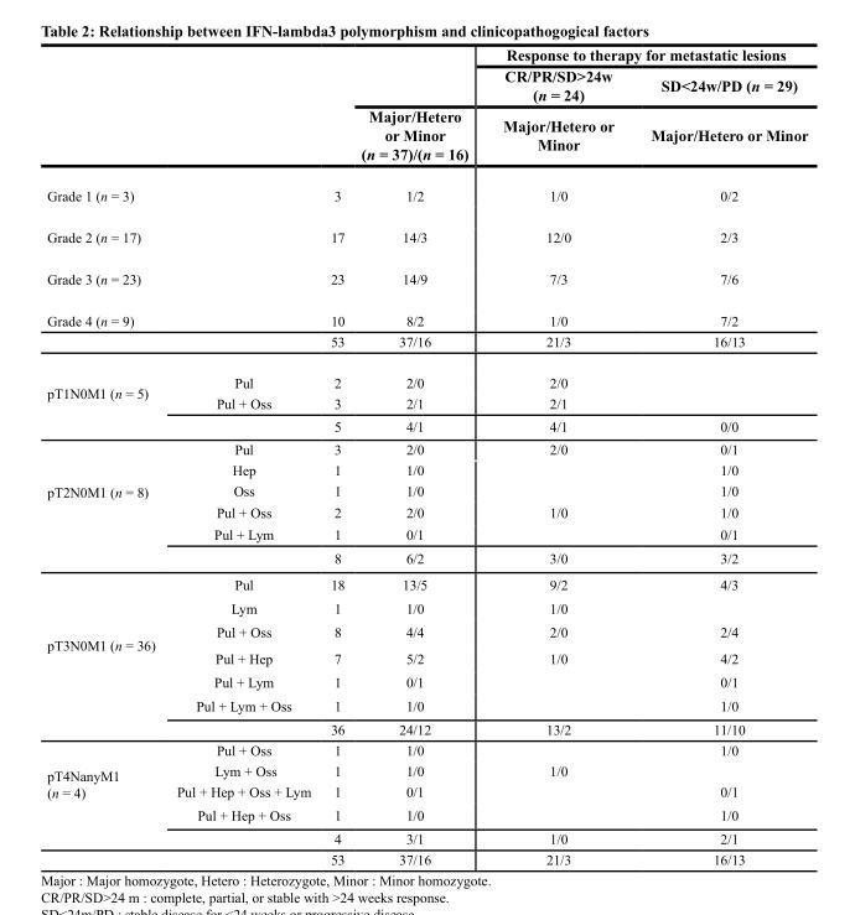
<table><thead><tr><td rowspan="3"></td><td rowspan="3"></td><td rowspan="3"></td><td rowspan="3">Major/Hetero or Minor (n = 37)/(n = 16)</td><td colspan="2">Response to therapy for metastatic lesions</td></tr><tr><td rowspan="2">CR/PR/SD&gt;24w (n = 24) Major/Hetero or Minor</td><td rowspan="2">SD&lt;24w/PD (n = 29) Major/Hetero or Minor</td></tr><tr></tr></thead><tbody><tr><td>Grade 1 (n = 3)</td><td></td><td>3</td><td>1/2</td><td>1/0</td><td>0/2</td></tr><tr><td>Grade 2 (n = 17)</td><td></td><td>17</td><td>14/3</td><td>12/0</td><td>2/3</td></tr><tr><td>Grade 3 (n = 23)</td><td></td><td>23</td><td>14/9</td><td>7/3</td><td>7/6</td></tr><tr><td rowspan="2">Grade 4 (n = 9)</td><td></td><td>10</td><td>8/2</td><td>1/0</td><td>7/2</td></tr><tr><td></td><td>53</td><td>37/16</td><td>21/3</td><td>16/13</td></tr><tr><td rowspan="3">pT1N0M1 (n = 5)</td><td>Pul</td><td>2</td><td>2/0</td><td>2/0</td><td></td></tr><tr><td>Pul + Oss</td><td>3</td><td>2/1</td><td>2/1</td><td></td></tr><tr><td></td><td>5</td><td>4/1</td><td>4/1</td><td>0/0</td></tr><tr><td rowspan="6">pT2N0M1 (n = 8)</td><td>Pul</td><td>3</td><td>2/0</td><td>2/0</td><td>0/1</td></tr><tr><td>Hep</td><td>1</td><td>1/0</td><td></td><td>1/0</td></tr><tr><td>Oss</td><td>1</td><td>1/0</td><td></td><td>1/0</td></tr><tr><td>Pul + Oss</td><td>2</td><td>2/0</td><td>1/0</td><td>1/0</td></tr><tr><td>Pul + Lym</td><td>1</td><td>0/1</td><td></td><td>0/1</td></tr><tr><td></td><td>8</td><td>6/2</td><td>3/0</td><td>3/2</td></tr><tr><td rowspan="7">pT3N0M1 (n = 36)</td><td>Pul</td><td>18</td><td>13/5</td><td>9/2</td><td>4/3</td></tr><tr><td>Lym</td><td>1</td><td>1/0</td><td>1/0</td><td></td></tr><tr><td>Pul + Oss</td><td>8</td><td>4/4</td><td>2/0</td><td>2/4</td></tr><tr><td>Pul + Hep</td><td>7</td><td>5/2</td><td>1/0</td><td>4/2</td></tr><tr><td>Pul + Lym</td><td>1</td><td>0/1</td><td></td><td>0/1</td></tr><tr><td>Pul + Lym + Oss</td><td>1</td><td>1/0</td><td></td><td>1/0</td></tr><tr><td></td><td>36</td><td>24/12</td><td>13/2</td><td>11/10</td></tr><tr><td rowspan="6">pT4NanyM1 (n = 4)</td><td>Pul + Oss</td><td>1</td><td>1/0</td><td></td><td>1/0</td></tr><tr><td>Lym + Oss</td><td>1</td><td>1/0</td><td>1/0</td><td></td></tr><tr><td>Pul + Hep + Oss + Lym</td><td>1</td><td>0/1</td><td></td><td>0/1</td></tr><tr><td>Pul + Hep + Oss</td><td>1</td><td>1/0</td><td></td><td>1/0</td></tr><tr><td></td><td>4</td><td>3/1</td><td>1/0</td><td>2/1</td></tr><tr><td></td><td>53</td><td>37/16</td><td>21/3</td><td>16/13</td></tr></tbody></table>